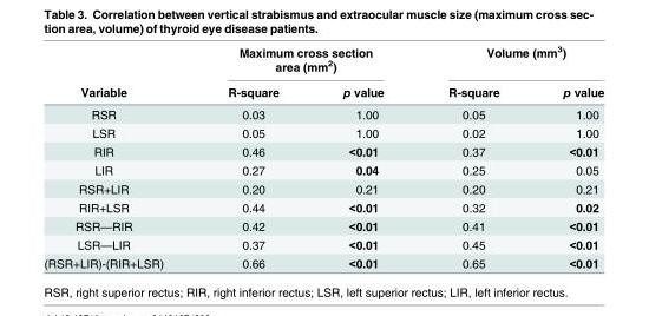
<table><thead><tr><td rowspan="2">Variable</td><td colspan="2">Maximum cross section area (mm<sup>2</sup>)</td><td colspan="2">Volume (mm<sup>3</sup>)</td></tr><tr><td>R-square</td><td>p value</td><td>R-square</td><td>p value</td></tr></thead><tbody><tr><td>RSR</td><td>0.03</td><td>1.00</td><td>0.05</td><td>1.00</td></tr><tr><td>LSR</td><td>0.05</td><td>1.00</td><td>0.02</td><td>1.00</td></tr><tr><td>RIR</td><td>0.46</td><td>&lt;0.01</td><td>0.37</td><td>&lt;0.01</td></tr><tr><td>LIR</td><td>0.27</td><td>0.04</td><td>0.25</td><td>0.05</td></tr><tr><td>RSR+LIR</td><td>0.20</td><td>0.21</td><td>0.20</td><td>0.21</td></tr><tr><td>RIR+LSR</td><td>0.44</td><td>&lt;0.01</td><td>0.32</td><td>0.02</td></tr><tr><td>RSR—RIR</td><td>0.42</td><td>&lt;0.01</td><td>0.41</td><td>&lt;0.01</td></tr><tr><td>LSR—LIR</td><td>0.37</td><td>&lt;0.01</td><td>0.45</td><td>&lt;0.01</td></tr><tr><td>(RSR+LIR)-(RIR+LSR)</td><td>0.66</td><td>&lt;0.01</td><td>0.65</td><td>&lt;0.01</td></tr></tbody></table>